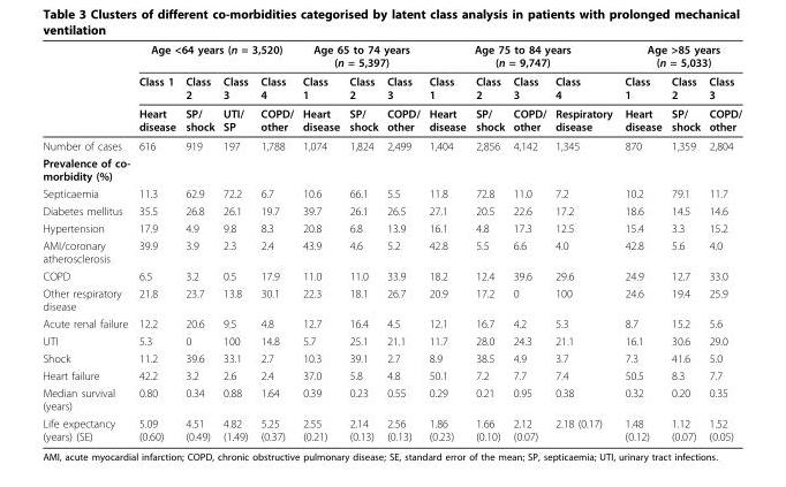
<table><thead><tr><td rowspan="3"></td><td colspan="4">Age &lt;64 years (n = 3,520)</td><td colspan="3">Age 65 to 74 years (n = 5,397)</td><td colspan="4">Age 75 to 84 years (n = 9,747)</td><td colspan="3">Age &gt;85 years (n = 5,033)</td></tr><tr><td rowspan="2">Class 1 Heart disease</td><td rowspan="2">Class 2 SP/ shock</td><td rowspan="2">Class 3 UTI/ SP</td><td rowspan="2">Class 4 COPD/ other</td><td rowspan="2">Class 1 Heart disease</td><td rowspan="2">Class 2 SP/ shock</td><td rowspan="2">Class 3 COPD/ other</td><td rowspan="2">Class 1 Heart disease</td><td rowspan="2">Class 2 SP/ shock</td><td rowspan="2">Class 3 COPD/ other</td><td rowspan="2">Class 4 Respiratory disease</td><td rowspan="2">Class 1 Heart disease</td><td rowspan="2">Class 2 SP/ shock</td><td rowspan="2">Class 3 COPD/ other</td></tr><tr></tr></thead><tbody><tr><td>Number of cases</td><td>616</td><td>919</td><td>197</td><td>1,788</td><td>1,074</td><td>1,824</td><td>2,499</td><td>1,404</td><td>2,856</td><td>4,142</td><td>1,345</td><td>870</td><td>1,359</td><td>2,804</td></tr><tr><td colspan="15">Prevalence of co- morbidity (%)</td></tr><tr><td>Septicaemia</td><td>11.3</td><td>62.9</td><td>72.2</td><td>6.7</td><td>10.6</td><td>66.1</td><td>5.5</td><td>11.8</td><td>72.8</td><td>11.0</td><td>7.2</td><td>10.2</td><td>79.1</td><td>11.7</td></tr><tr><td>Diabetes mellitus</td><td>35.5</td><td>26.8</td><td>26.1</td><td>19.7</td><td>39.7</td><td>26.1</td><td>26.5</td><td>27.1</td><td>20.5</td><td>22.6</td><td>17.2</td><td>18.6</td><td>14.5</td><td>14.6</td></tr><tr><td>Hypertension</td><td>17.9</td><td>4.9</td><td>9.8</td><td>8.3</td><td>20.8</td><td>6.8</td><td>13.9</td><td>16.1</td><td>4.8</td><td>17.3</td><td>12.5</td><td>15.4</td><td>3.3</td><td>15.2</td></tr><tr><td>AMI/coronary atherosclerosis</td><td>39.9</td><td>3.9</td><td>2.3</td><td>2.4</td><td>43.9</td><td>4.6</td><td>5.2</td><td>42.8</td><td>5.5</td><td>6.6</td><td>4.0</td><td>42.8</td><td>5.6</td><td>4.0</td></tr><tr><td>COPD</td><td>6.5</td><td>3.2</td><td>0.5</td><td>17.9</td><td>11.0</td><td>11.0</td><td>33.9</td><td>18.2</td><td>12.4</td><td>39.6</td><td>29.6</td><td>24.9</td><td>12.7</td><td>33.0</td></tr><tr><td>Other respiratory disease</td><td>21.8</td><td>23.7</td><td>13.8</td><td>30.1</td><td>22.3</td><td>18.1</td><td>26.7</td><td>20.9</td><td>17.2</td><td>0</td><td>100</td><td>24.6</td><td>19.4</td><td>25.9</td></tr><tr><td>Acute renal failure</td><td>12.2</td><td>20.6</td><td>9.5</td><td>4.8</td><td>12.7</td><td>16.4</td><td>4.5</td><td>12.1</td><td>16.7</td><td>4.2</td><td>5.3</td><td>8.7</td><td>15.2</td><td>5.6</td></tr><tr><td>UTI</td><td>5.3</td><td>0</td><td>100</td><td>14.8</td><td>5.7</td><td>25.1</td><td>21.1</td><td>11.7</td><td>28.0</td><td>24.3</td><td>21.1</td><td>16.1</td><td>30.6</td><td>29.0</td></tr><tr><td>Shock</td><td>11.2</td><td>39.6</td><td>33.1</td><td>2.7</td><td>10.3</td><td>39.1</td><td>2.7</td><td>8.9</td><td>38.5</td><td>4.9</td><td>3.7</td><td>7.3</td><td>41.6</td><td>5.0</td></tr><tr><td>Heart failure</td><td>42.2</td><td>3.2</td><td>2.6</td><td>2.4</td><td>37.0</td><td>5.8</td><td>4.8</td><td>50.1</td><td>7.2</td><td>7.7</td><td>7.4</td><td>50.5</td><td>8.3</td><td>7.7</td></tr><tr><td>Median survival (years)</td><td>0.80</td><td>0.34</td><td>0.88</td><td>1.64</td><td>0.39</td><td>0.23</td><td>0.55</td><td>0.29</td><td>0.21</td><td>0.95</td><td>0.38</td><td>0.32</td><td>0.20</td><td>0.35</td></tr><tr><td>Life expectancy (years) (SE)</td><td>5.09 (0.60)</td><td>4.51 (0.49)</td><td>4.82 (1.49)</td><td>5.25 (0.37)</td><td>2.55 (0.21)</td><td>2.14 (0.13)</td><td>2.56 (0.13)</td><td>1.86 (0.23)</td><td>1.66 (0.10)</td><td>2.12 (0.07)</td><td>2.18 (0.17)</td><td>1.48 (0.12)</td><td>1.12 (0.07)</td><td>1.52 (0.05)</td></tr></tbody></table>